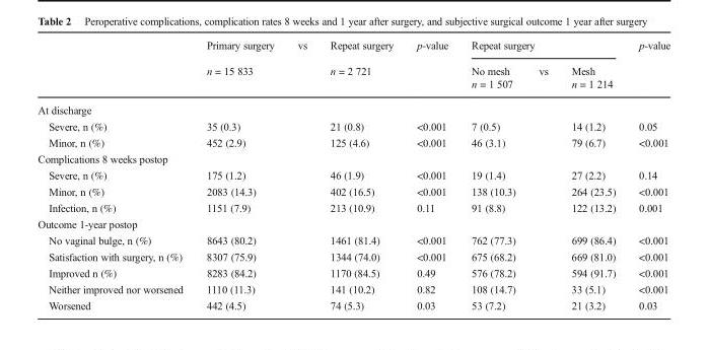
<table><thead><tr><td rowspan="3"></td><td rowspan="3">Primary surgery n = 15 833</td><td rowspan="3">vs</td><td rowspan="3">Repeat surgery n = 2 721</td><td rowspan="3">p-value</td><td colspan="3">Repeat surgery</td><td rowspan="3">p-value</td></tr><tr><td rowspan="2">No mesh n = 1 507</td><td rowspan="2">vs</td><td rowspan="2">Mesh n = 1 214</td></tr><tr></tr></thead><tbody><tr><td colspan="9">At discharge</td></tr><tr><td>Severe, n (%)</td><td>35 (0.3)</td><td rowspan="2"></td><td>21 (0.8)</td><td>&lt;0.001</td><td>7 (0.5)</td><td rowspan="2"></td><td>14 (1.2)</td><td>0.05</td></tr><tr><td>Minor, n (%)</td><td>452 (2.9)</td><td>125 (4.6)</td><td>&lt;0.001</td><td>46 (3.1)</td><td>79 (6.7)</td><td>&lt;0.001</td></tr><tr><td colspan="9">Complications 8 weeks postop</td></tr><tr><td>Severe, n (%)</td><td>175 (1.2)</td><td rowspan="3"></td><td>46 (1.9)</td><td>&lt;0.001</td><td>19 (1.4)</td><td rowspan="3"></td><td>27 (2.2)</td><td>0.14</td></tr><tr><td>Minor, n (%)</td><td>2083 (14.3)</td><td>402 (16.5)</td><td>&lt;0.001</td><td>138 (10.3)</td><td>264 (23.5)</td><td>&lt;0.001</td></tr><tr><td>Infection, n (%)</td><td>1151 (7.9)</td><td>213 (10.9)</td><td>0.11</td><td>91 (8.8)</td><td>122 (13.2)</td><td>0.001</td></tr><tr><td colspan="9">Outcome 1-year postop</td></tr><tr><td>No vaginal bulge, n (%)</td><td>8643 (80.2)</td><td rowspan="5"></td><td>1461 (81.4)</td><td>&lt;0.001</td><td>762 (77.3)</td><td rowspan="5"></td><td>699 (86.4)</td><td>&lt;0.001</td></tr><tr><td>Satisfaction with surgery, n (%)</td><td>8307 (75.9)</td><td>1344 (74.0)</td><td>&lt;0.001</td><td>675 (68.2)</td><td>669 (81.0)</td><td>&lt;0.001</td></tr><tr><td>Improved n (%)</td><td>8283 (84.2)</td><td>1170 (84.5)</td><td>0.49</td><td>576 (78.2)</td><td>594 (91.7)</td><td>&lt;0.001</td></tr><tr><td>Neither improved nor worsened</td><td>1110 (11.3)</td><td>141 (10.2)</td><td>0.82</td><td>108 (14.7)</td><td>33 (5.1)</td><td>&lt;0.001</td></tr><tr><td>Worsened</td><td>442 (4.5)</td><td>74 (5.3)</td><td>0.03</td><td>53 (7.2)</td><td>21 (3.2)</td><td>0.03</td></tr></tbody></table>